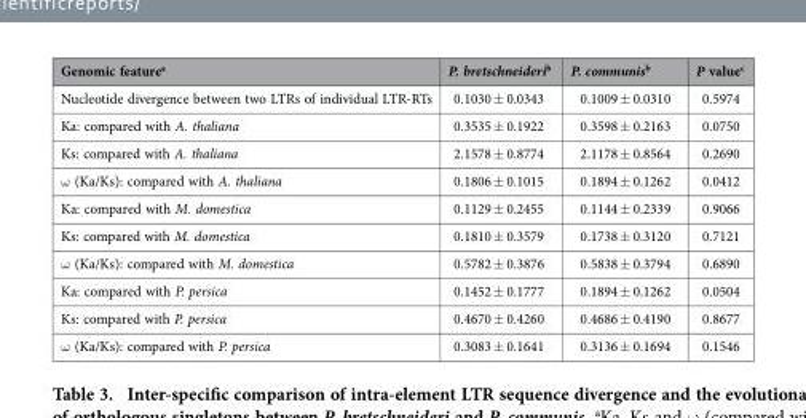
<table><thead><tr><td>Genomic feature<sup>a</sup></td><td>P. bretschneideri<sup>b</sup></td><td>P. communis<sup>b</sup></td><td>P value<sup>c</sup></td></tr></thead><tbody><tr><td>Nucleotide divergence between two LTRs of individual LTR-RTs</td><td>0.1030 ± 0.0343</td><td>0.1009 ± 0.0310</td><td>0.5974</td></tr><tr><td>Ka: compared with A. thaliana</td><td>0.3535 ± 0.1922</td><td>0.3598 ± 0.2163</td><td>0.0750</td></tr><tr><td>Ks: compared with A. thaliana</td><td>2.1578 ± 0.8774</td><td>2.1178 ± 0.8564</td><td>0.2690</td></tr><tr><td>ω (Ka/Ks): compared with A. thaliana</td><td>0.1806 ± 0.1015</td><td>0.1894 ± 0.1262</td><td>0.0412</td></tr><tr><td>Ka: compared with M. domestica</td><td>0.1129 ± 0.2455</td><td>0.1144 ± 0.2339</td><td>0.9066</td></tr><tr><td>Ks: compared with M. domestica</td><td>0.1810 ± 0.3579</td><td>0.1738 ± 0.3120</td><td>0.7121</td></tr><tr><td>ω (Ka/Ks): compared with M. domestica</td><td>0.5782 ± 0.3876</td><td>0.5838 ± 0.3794</td><td>0.6890</td></tr><tr><td>Ka: compared with P. persica</td><td>0.1452 ± 0.1777</td><td>0.1894 ± 0.1262</td><td>0.0504</td></tr><tr><td>Ks: compared with P. persica</td><td>0.4670 ± 0.4260</td><td>0.4686 ± 0.4190</td><td>0.8677</td></tr><tr><td>ω (Ka/Ks): compared with P. persica</td><td>0.3083 ± 0.1641</td><td>0.3136 ± 0.1694</td><td>0.1546</td></tr></tbody></table>